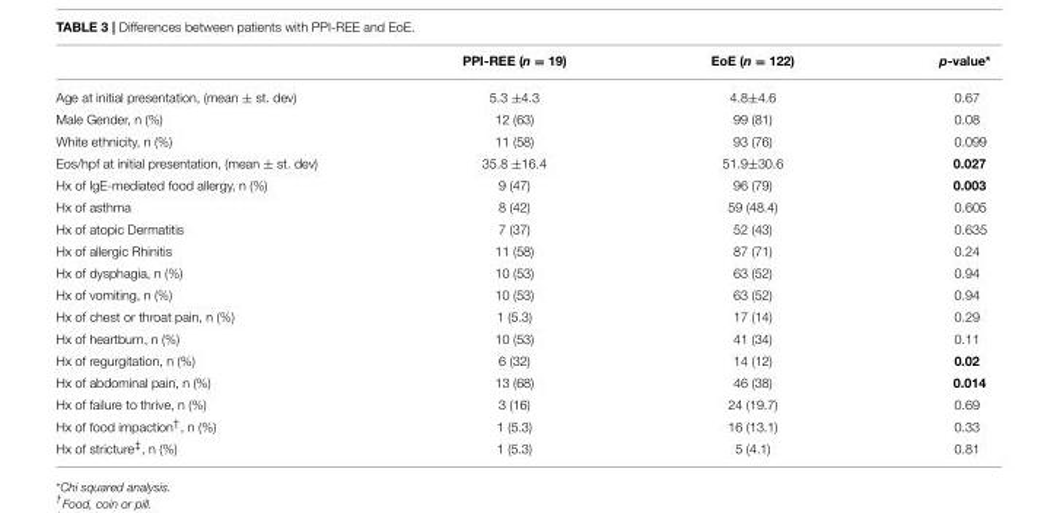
<table><thead><tr><td></td><td>PPI-REE (n = 19)</td><td>EoE (n = 122)</td><td>p-value*</td></tr></thead><tbody><tr><td>Age at initial presentation, (mean ± st. dev)</td><td>5.3 ±4.3</td><td>4.8±4.6</td><td>0.67</td></tr><tr><td>Male Gender, n (%)</td><td>12 (63)</td><td>99 (81)</td><td>0.08</td></tr><tr><td>White ethnicity, n (%)</td><td>11 (58)</td><td>93 (76)</td><td>0.099</td></tr><tr><td>Eos/hpf at initial presentation, (mean ± st. dev)</td><td>35.8 ±16.4</td><td>51.9±30.6</td><td>0.027</td></tr><tr><td>Hx of IgE-mediated food allergy, n (%)</td><td>9 (47)</td><td>96 (79)</td><td>0.003</td></tr><tr><td>Hx of asthma</td><td>8 (42)</td><td>59 (48.4)</td><td>0.605</td></tr><tr><td>Hx of atopic Dermatitis</td><td>7 (37)</td><td>52 (43)</td><td>0.635</td></tr><tr><td>Hx of allergic Rhinitis</td><td>11 (58)</td><td>87 (71)</td><td>0.24</td></tr><tr><td>Hx of dysphagia, n (%)</td><td>10 (53)</td><td>63 (52)</td><td>0.94</td></tr><tr><td>Hx of vomiting, n (%)</td><td>10 (53)</td><td>63 (52)</td><td>0.94</td></tr><tr><td>Hx of chest or throat pain, n (%)</td><td>1 (5.3)</td><td>17 (14)</td><td>0.29</td></tr><tr><td>Hx of heartburn, n (%)</td><td>10 (53)</td><td>41 (34)</td><td>0.11</td></tr><tr><td>Hx of regurgitation, n (%)</td><td>6 (32)</td><td>14 (12)</td><td>0.02</td></tr><tr><td>Hx of abdominal pain, n (%)</td><td>13 (68)</td><td>46 (38)</td><td>0.014</td></tr><tr><td>Hx of failure to thrive, n (%)</td><td>3 (16)</td><td>24 (19.7)</td><td>0.69</td></tr><tr><td>Hx of food impaction<sup>†</sup>, n (%)</td><td>1 (5.3)</td><td>16 (13.1)</td><td>0.33</td></tr><tr><td>Hx of stricture<sup>‡</sup>, n (%)</td><td>1 (5.3)</td><td>5 (4.1)</td><td>0.81</td></tr></tbody></table>